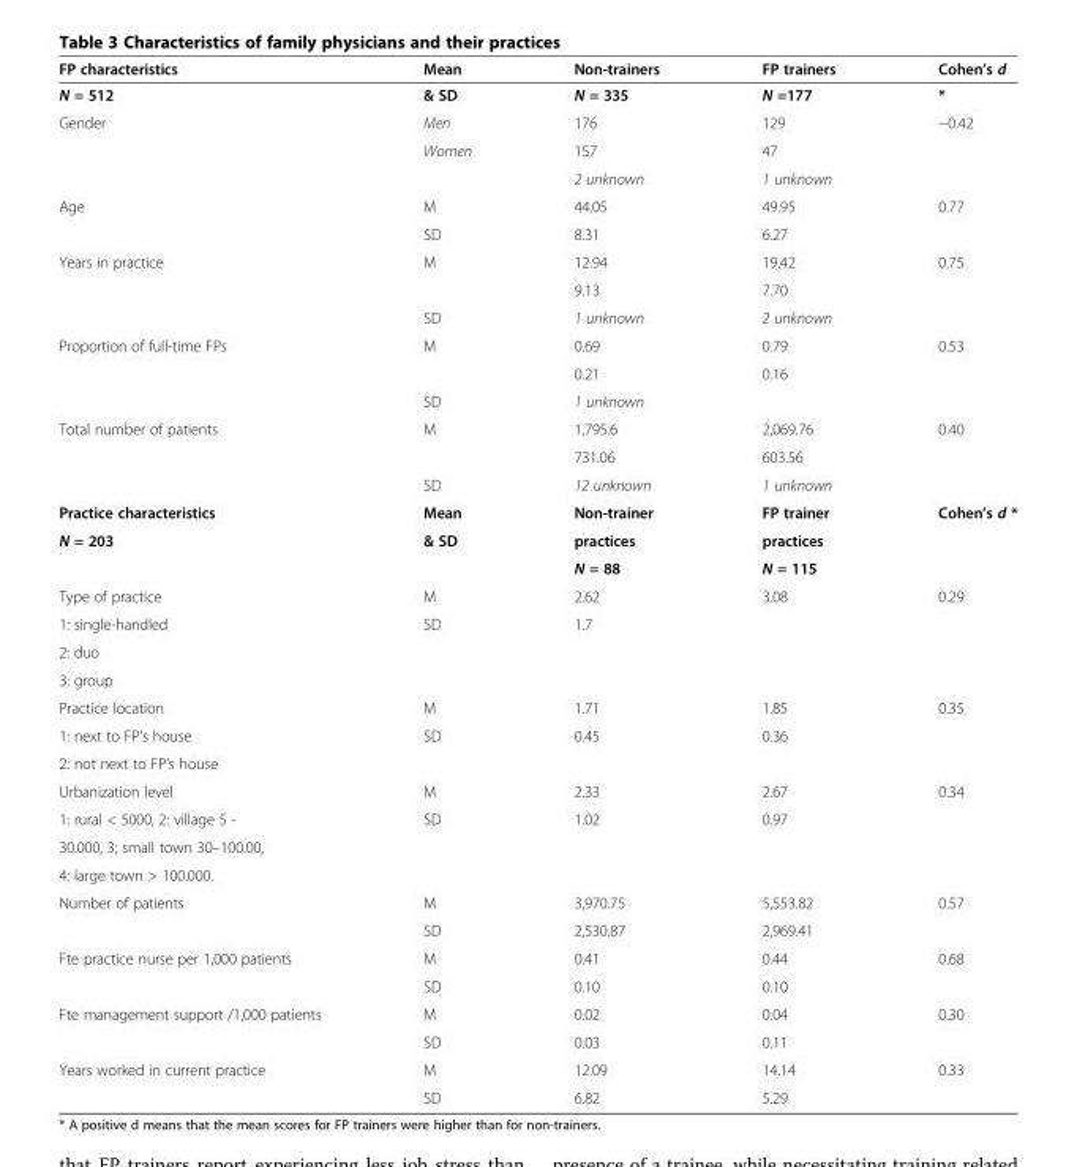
<table><thead><tr><td>FP characteristics</td><td>Mean</td><td>Non-trainers</td><td>FP trainers</td><td>Cohen’s d</td></tr></thead><tbody><tr><td>N = 512</td><td>&amp; SD</td><td>N = 335</td><td>N =177</td><td>*</td></tr><tr><td rowspan="3">Gender</td><td>Men</td><td>176</td><td>129</td><td>−0.42</td></tr><tr><td>Women</td><td>157</td><td>47</td><td></td></tr><tr><td></td><td>2 unknown</td><td>1 unknown</td><td></td></tr><tr><td rowspan="2">Age</td><td>M</td><td>44.05</td><td>49.95</td><td>0.77</td></tr><tr><td>SD</td><td>8.31</td><td>6.27</td><td></td></tr><tr><td rowspan="3">Years in practice</td><td>M</td><td>12.94</td><td>19.42</td><td>0.75</td></tr><tr><td></td><td>9.13</td><td>7.70</td><td></td></tr><tr><td>SD</td><td>1 unknown</td><td>2 unknown</td><td></td></tr><tr><td rowspan="3">Proportion of full-time FPs</td><td>M</td><td>0.69</td><td>0.79</td><td>0.53</td></tr><tr><td></td><td>0.21</td><td>0.16</td><td></td></tr><tr><td>SD</td><td>1 unknown</td><td></td><td></td></tr><tr><td rowspan="3">Total number of patients</td><td>M</td><td>1,795.6</td><td>2,069.76</td><td>0.40</td></tr><tr><td></td><td>731.06</td><td>603.56</td><td></td></tr><tr><td>SD</td><td>12 unknown</td><td>1 unknown</td><td></td></tr><tr><td>Practice characteristics</td><td>Mean</td><td>Non-trainer</td><td>FP trainer</td><td>Cohen’s d *</td></tr><tr><td rowspan="2">N = 203</td><td>&amp; SD</td><td>practices</td><td>practices</td><td></td></tr><tr><td></td><td>N = 88</td><td>N = 115</td><td></td></tr><tr><td>Type of practice</td><td>M</td><td>2.62</td><td>3.08</td><td>0.29</td></tr><tr><td>1: single-handled</td><td>SD</td><td>1.7</td><td></td><td></td></tr><tr><td colspan="5">2: duo</td></tr><tr><td colspan="5">3: group</td></tr><tr><td>Practice location</td><td>M</td><td>1.71</td><td>1.85</td><td>0.35</td></tr><tr><td>1: next to FP’s house</td><td>SD</td><td>0.45</td><td>0.36</td><td></td></tr><tr><td colspan="5">2: not next to FP’s house</td></tr><tr><td>Urbanization level</td><td>M</td><td>2.33</td><td>2.67</td><td>0.34</td></tr><tr><td>1: rural &lt; 5000, 2: village 5 -</td><td>SD</td><td>1.02</td><td>0.97</td><td></td></tr><tr><td colspan="5">30.000, 3; small town 30–100.00,</td></tr><tr><td colspan="5">4: large town &gt; 100.000.</td></tr><tr><td rowspan="2">Number of patients</td><td>M</td><td>3,970.75</td><td>5,553.82</td><td>0.57</td></tr><tr><td>SD</td><td>2,530.87</td><td>2,969.41</td><td></td></tr><tr><td rowspan="2">Fte practice nurse per 1,000 patients</td><td>M</td><td>0.41</td><td>0.44</td><td>0.68</td></tr><tr><td>SD</td><td>0.10</td><td>0.10</td><td></td></tr><tr><td rowspan="2">Fte management support /1,000 patients</td><td>M</td><td>0.02</td><td>0.04</td><td>0.30</td></tr><tr><td>SD</td><td>0.03</td><td>0.11</td><td></td></tr><tr><td rowspan="2">Years worked in current practice</td><td>M</td><td>12.09</td><td>14.14</td><td>0.33</td></tr><tr><td>SD</td><td>6.82</td><td>5.29</td><td></td></tr></tbody></table>